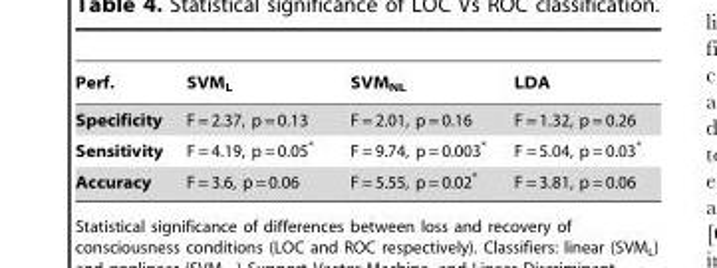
<table><thead><tr><td>Perf.</td><td>SVM<sub>L</sub></td><td>SVM<sub>NL</sub></td><td>LDA</td></tr></thead><tbody><tr><td>Specificity</td><td>F = 2.37, p = 0.13</td><td>F = 2.01, p = 0.16</td><td>F = 1.32, p = 0.26</td></tr><tr><td>Sensitivity</td><td>F = 4.19, p = 0.05*</td><td>F = 9.74, p = 0.003*</td><td>F = 5.04, p = 0.03*</td></tr><tr><td>Accuracy</td><td>F = 3.6, p = 0.06</td><td>F = 5.55, p = 0.02*</td><td>F = 3.81, p = 0.06</td></tr></tbody></table>